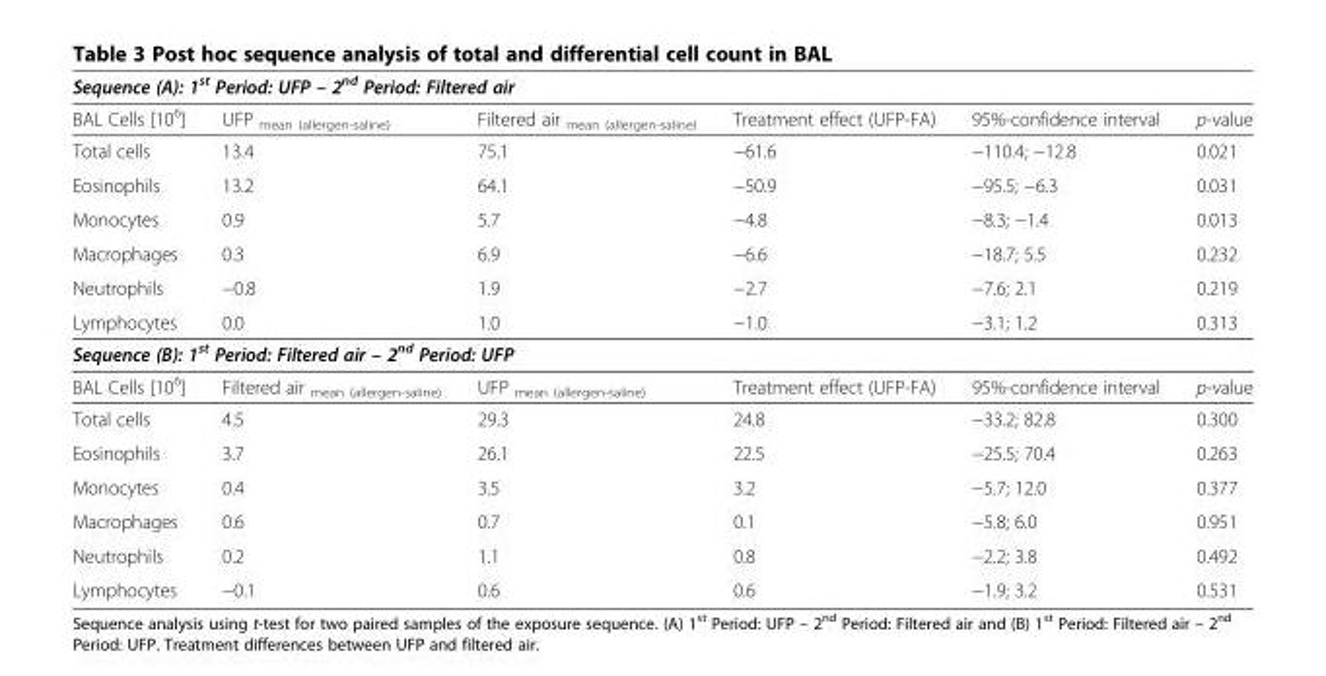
<table><tbody><tr><td colspan="6">Sequence (A): 1<sup>st</sup> Period: UFP – 2<sup>nd</sup> Period: Filtered air</td></tr><tr><td>BAL Cells [10<sup>6</sup>]</td><td>UFP <sub>mean (allergen-saline)</sub></td><td>Filtered air <sub>mean (allergen-saline)</sub></td><td>Treatment effect (UFP-FA)</td><td>95%-confidence interval</td><td>p-value</td></tr><tr><td>Total cells</td><td>13.4</td><td>75.1</td><td>−61.6</td><td>−110.4; −12.8</td><td>0.021</td></tr><tr><td>Eosinophils</td><td>13.2</td><td>64.1</td><td>−50.9</td><td>−95.5; −6.3</td><td>0.031</td></tr><tr><td>Monocytes</td><td>0.9</td><td>5.7</td><td>−4.8</td><td>−8.3; −1.4</td><td>0.013</td></tr><tr><td>Macrophages</td><td>0.3</td><td>6.9</td><td>−6.6</td><td>−18.7; 5.5</td><td>0.232</td></tr><tr><td>Neutrophils</td><td>−0.8</td><td>1.9</td><td>−2.7</td><td>−7.6; 2.1</td><td>0.219</td></tr><tr><td>Lymphocytes</td><td>0.0</td><td>1.0</td><td>−1.0</td><td>−3.1; 1.2</td><td>0.313</td></tr><tr><td colspan="6">Sequence (B): 1<sup>st</sup> Period: Filtered air – 2<sup>nd</sup> Period: UFP</td></tr><tr><td>BAL Cells [10<sup>6</sup>]</td><td>Filtered air <sub>mean (allergen-saline)</sub></td><td>UFP <sub>mean (allergen-saline)</sub></td><td>Treatment effect (UFP-FA)</td><td>95%-confidence interval</td><td>p-value</td></tr><tr><td>Total cells</td><td>4.5</td><td>29.3</td><td>24.8</td><td>−33.2; 82.8</td><td>0.300</td></tr><tr><td>Eosinophils</td><td>3.7</td><td>26.1</td><td>22.5</td><td>−25.5; 70.4</td><td>0.263</td></tr><tr><td>Monocytes</td><td>0.4</td><td>3.5</td><td>3.2</td><td>−5.7; 12.0</td><td>0.377</td></tr><tr><td>Macrophages</td><td>0.6</td><td>0.7</td><td>0.1</td><td>−5.8; 6.0</td><td>0.951</td></tr><tr><td>Neutrophils</td><td>0.2</td><td>1.1</td><td>0.8</td><td>−2.2; 3.8</td><td>0.492</td></tr><tr><td>Lymphocytes</td><td>−0.1</td><td>0.6</td><td>0.6</td><td>−1.9; 3.2</td><td>0.531</td></tr></tbody></table>